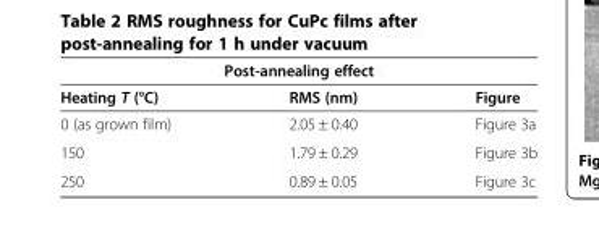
<table><thead><tr><td colspan="2">Post-annealing effect</td><td rowspan="2">Figure</td></tr><tr><td>Heating T (°C)</td><td>RMS (nm)</td></tr></thead><tbody><tr><td>0 (as grown film)</td><td>2.05 ± 0.40</td><td>Figure 3a</td></tr><tr><td>150</td><td>1.79 ± 0.29</td><td>Figure 3b</td></tr><tr><td>250</td><td>0.89 ± 0.05</td><td>Figure 3c</td></tr></tbody></table>